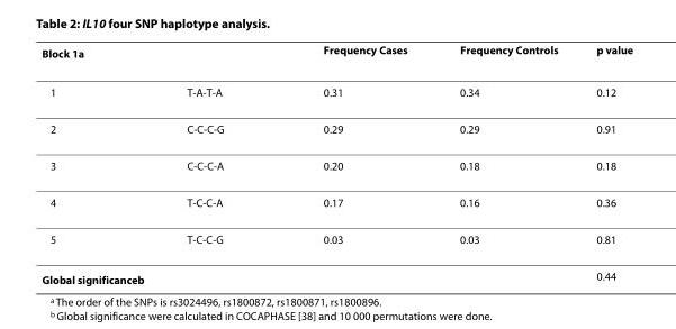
<table><thead><tr><td colspan="2">Block 1a</td><td rowspan="2">Frequency Cases 0.31</td><td rowspan="2">Frequency Controls 0.34</td><td rowspan="2">p value 0.12</td></tr><tr><td>1</td><td>T-A-T-A</td></tr></thead><tbody><tr><td>2</td><td>C-C-C-G</td><td>0.29</td><td>0.29</td><td>0.91</td></tr><tr><td>3</td><td>C-C-C-A</td><td>0.20</td><td>0.18</td><td>0.18</td></tr><tr><td>4</td><td>T-C-C-A</td><td>0.17</td><td>0.16</td><td>0.36</td></tr><tr><td>5</td><td>T-C-C-G</td><td>0.03</td><td>0.03</td><td>0.81</td></tr><tr><td colspan="3">Global significance<sup>b</sup></td><td></td><td>0.44</td></tr></tbody></table>